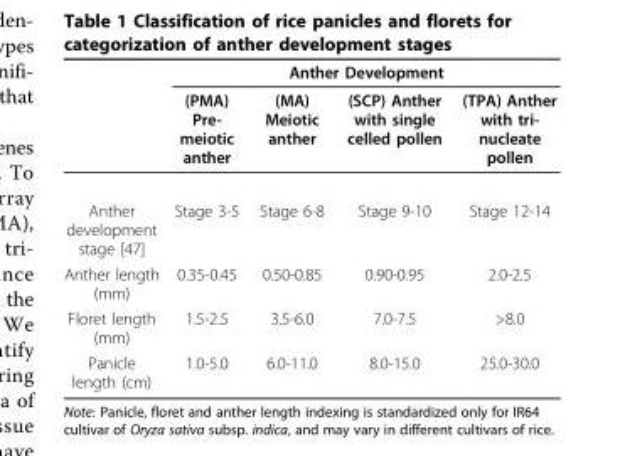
<table><thead><tr><td rowspan="2"></td><td colspan="4">Anther Development</td></tr><tr><td>(PMA) Pre- meiotic anther</td><td>(MA) Meiotic anther</td><td>(SCP) Anther with single celled pollen</td><td>(TPA) Anther with tri- nucleate pollen</td></tr></thead><tbody><tr><td>Anther development stage [47]</td><td>Stage 3-5</td><td>Stage 6-8</td><td>Stage 9-10</td><td>Stage 12-14</td></tr><tr><td>Anther length (mm)</td><td>0.35-0.45</td><td>0.50-0.85</td><td>0.90-0.95</td><td>2.0-2.5</td></tr><tr><td>Floret length (mm)</td><td>1.5-2.5</td><td>3.5-6.0</td><td>7.0-7.5</td><td>&gt;8.0</td></tr><tr><td>Panicle length (cm)</td><td>1.0-5.0</td><td>6.0-11.0</td><td>8.0-15.0</td><td>25.0-30.0</td></tr></tbody></table>